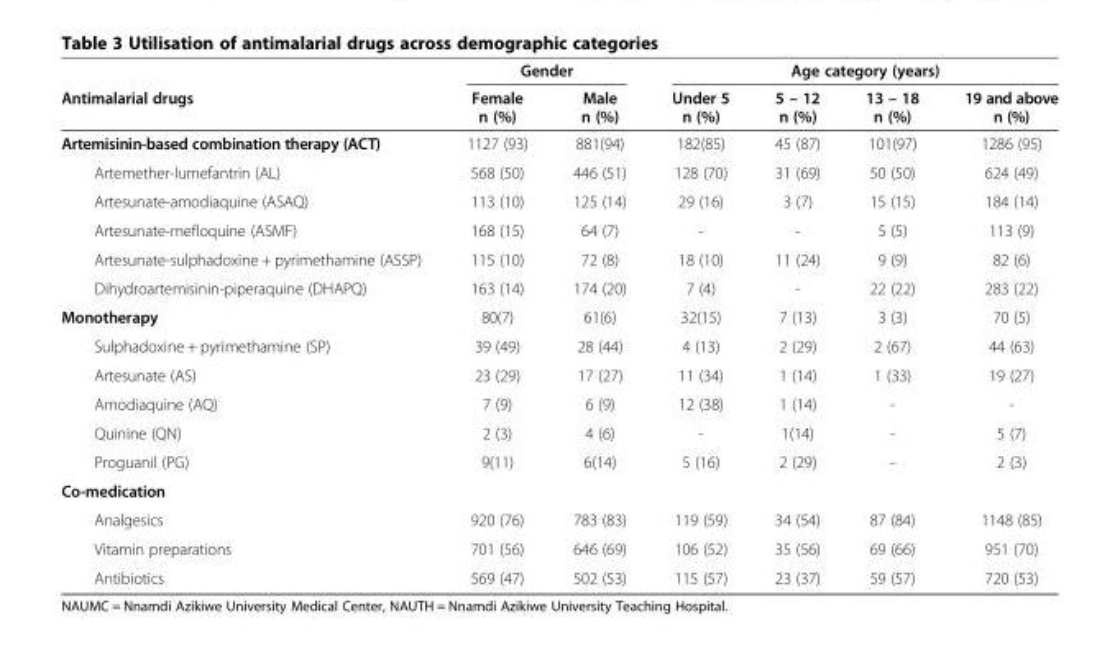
<table><thead><tr><td rowspan="2">Antimalarial drugs</td><td colspan="2">Gender</td><td colspan="4">Age category (years)</td></tr><tr><td>Female n (%)</td><td>Male n (%)</td><td>Under 5 n (%)</td><td>5 – 12 n (%)</td><td>13 – 18 n (%)</td><td>19 and above n (%)</td></tr></thead><tbody><tr><td>Artemisinin-based combination therapy (ACT)</td><td>1127 (93)</td><td>881(94)</td><td>182(85)</td><td>45 (87)</td><td>101(97)</td><td>1286 (95)</td></tr><tr><td>Artemether-lumefantrin (AL)</td><td>568 (50)</td><td>446 (51)</td><td>128 (70)</td><td>31 (69)</td><td>50 (50)</td><td>624 (49)</td></tr><tr><td>Artesunate-amodiaquine (ASAQ)</td><td>113 (10)</td><td>125 (14)</td><td>29 (16)</td><td>3 (7)</td><td>15 (15)</td><td>184 (14)</td></tr><tr><td>Artesunate-mefloquine (ASMF)</td><td>168 (15)</td><td>64 (7)</td><td>-</td><td>-</td><td>5 (5)</td><td>113 (9)</td></tr><tr><td>Artesunate-sulphadoxine + pyrimethamine (ASSP)</td><td>115 (10)</td><td>72 (8)</td><td>18 (10)</td><td>11 (24)</td><td>9 (9)</td><td>82 (6)</td></tr><tr><td>Dihydroartemisinin-piperaquine (DHAPQ)</td><td>163 (14)</td><td>174 (20)</td><td>7 (4)</td><td>-</td><td>22 (22)</td><td>283 (22)</td></tr><tr><td>Monotherapy</td><td>80(7)</td><td>61(6)</td><td>32(15)</td><td>7 (13)</td><td>3 (3)</td><td>70 (5)</td></tr><tr><td>Sulphadoxine + pyrimethamine (SP)</td><td>39 (49)</td><td>28 (44)</td><td>4 (13)</td><td>2 (29)</td><td>2 (67)</td><td>44 (63)</td></tr><tr><td>Artesunate (AS)</td><td>23 (29)</td><td>17 (27)</td><td>11 (34)</td><td>1 (14)</td><td>1 (33)</td><td>19 (27)</td></tr><tr><td>Amodiaquine (AQ)</td><td>7 (9)</td><td>6 (9)</td><td>12 (38)</td><td>1 (14)</td><td>-</td><td>-</td></tr><tr><td>Quinine (QN)</td><td>2 (3)</td><td>4 (6)</td><td>-</td><td>1(14)</td><td>-</td><td>5 (7)</td></tr><tr><td>Proguanil (PG)</td><td>9(11)</td><td>6(14)</td><td>5 (16)</td><td>2 (29)</td><td>-</td><td>2 (3)</td></tr><tr><td colspan="7">Co-medication</td></tr><tr><td>Analgesics</td><td>920 (76)</td><td>783 (83)</td><td>119 (59)</td><td>34 (54)</td><td>87 (84)</td><td>1148 (85)</td></tr><tr><td>Vitamin preparations</td><td>701 (56)</td><td>646 (69)</td><td>106 (52)</td><td>35 (56)</td><td>69 (66)</td><td>951 (70)</td></tr><tr><td>Antibiotics</td><td>569 (47)</td><td>502 (53)</td><td>115 (57)</td><td>23 (37)</td><td>59 (57)</td><td>720 (53)</td></tr></tbody></table>